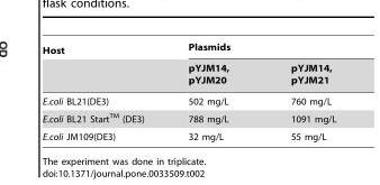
<table><thead><tr><td rowspan="2">Host</td><td colspan="2">Plasmids</td></tr><tr><td>pYJM14, pYJM20</td><td>pYJM14, pYJM21</td></tr></thead><tbody><tr><td>E.coli BL21(DE3)</td><td>502 mg/L</td><td>760 mg/L</td></tr><tr><td>E.coli BL21 StartTM (DE3)</td><td>788 mg/L</td><td>1091 mg/L</td></tr><tr><td>E.coli JM109(DE3)</td><td>32 mg/L</td><td>55 mg/L</td></tr></tbody></table>